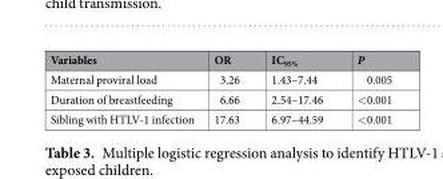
<table><thead><tr><td>Variables</td><td>OR</td><td>IC<sub>95%</sub></td><td>P</td></tr></thead><tbody><tr><td>Maternal proviral load</td><td>3.26</td><td>1.43–7.44</td><td>0.005</td></tr><tr><td>Duration of breastfeeding</td><td>6.66</td><td>2.54–17.46</td><td>&lt;0.001</td></tr><tr><td>Sibling with HTLV-1 infection</td><td>17.63</td><td>6.97–44.59</td><td>&lt;0.001</td></tr></tbody></table>